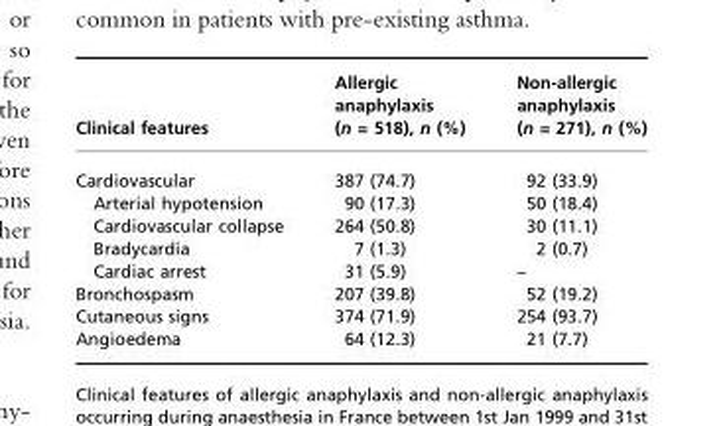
<table><thead><tr><td>Clinical features</td><td>Allergic anaphylaxis (n = 518), n (%)</td><td>Non-allergic anaphylaxis (n = 271), n (%)</td></tr></thead><tbody><tr><td>Cardiovascular</td><td>387 (74.7)</td><td>92 (33.9)</td></tr><tr><td>Arterial hypotension</td><td>90 (17.3)</td><td>50 (18.4)</td></tr><tr><td>Cardiovascular collapse</td><td>264 (50.8)</td><td>30 (11.1)</td></tr><tr><td>Bradycardia</td><td>7 (1.3)</td><td>2 (0.7)</td></tr><tr><td>Cardiac arrest</td><td>31 (5.9)</td><td>–</td></tr><tr><td>Bronchospasm</td><td>207 (39.8)</td><td>52 (19.2)</td></tr><tr><td>Cutaneous signs</td><td>374 (71.9)</td><td>254 (93.7)</td></tr><tr><td>Angioedema</td><td>64 (12.3)</td><td>21 (7.7)</td></tr></tbody></table>